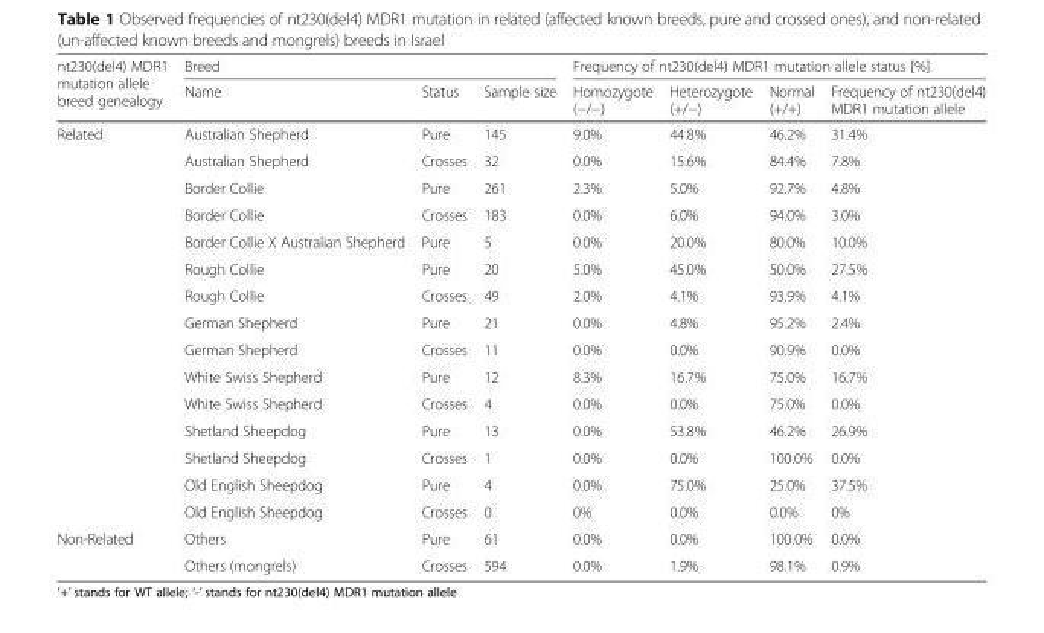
<table><thead><tr><td rowspan="2">nt230(del4) MDR1 mutation allele breed genealogy</td><td colspan="3">Breed</td><td colspan="4">Frequency of nt230(del4) MDR1 mutation allele status [%]</td></tr><tr><td>Name</td><td>Status</td><td>Sample size</td><td>Homozygote (−/−)</td><td>Heterozygote (+/−)</td><td>Normal (+/+)</td><td>Frequency of nt230(del4) MDR1 mutation allele</td></tr></thead><tbody><tr><td rowspan="15">Related</td><td>Australian Shepherd</td><td>Pure</td><td>145</td><td>9.0%</td><td>44.8%</td><td>46.2%</td><td>31.4%</td></tr><tr><td>Australian Shepherd</td><td>Crosses</td><td>32</td><td>0.0%</td><td>15.6%</td><td>84.4%</td><td>7.8%</td></tr><tr><td>Border Collie</td><td>Pure</td><td>261</td><td>2.3%</td><td>5.0%</td><td>92.7%</td><td>4.8%</td></tr><tr><td>Border Collie</td><td>Crosses</td><td>183</td><td>0.0%</td><td>6.0%</td><td>94.0%</td><td>3.0%</td></tr><tr><td>Border Collie X Australian Shepherd</td><td>Pure</td><td>5</td><td>0.0%</td><td>20.0%</td><td>80.0%</td><td>10.0%</td></tr><tr><td>Rough Collie</td><td>Pure</td><td>20</td><td>5.0%</td><td>45.0%</td><td>50.0%</td><td>27.5%</td></tr><tr><td>Rough Collie</td><td>Crosses</td><td>49</td><td>2.0%</td><td>4.1%</td><td>93.9%</td><td>4.1%</td></tr><tr><td>German Shepherd</td><td>Pure</td><td>21</td><td>0.0%</td><td>4.8%</td><td>95.2%</td><td>2.4%</td></tr><tr><td>German Shepherd</td><td>Crosses</td><td>11</td><td>0.0%</td><td>0.0%</td><td>90.9%</td><td>0.0%</td></tr><tr><td>White Swiss Shepherd</td><td>Pure</td><td>12</td><td>8.3%</td><td>16.7%</td><td>75.0%</td><td>16.7%</td></tr><tr><td>White Swiss Shepherd</td><td>Crosses</td><td>4</td><td>0.0%</td><td>0.0%</td><td>75.0%</td><td>0.0%</td></tr><tr><td>Shetland Sheepdog</td><td>Pure</td><td>13</td><td>0.0%</td><td>53.8%</td><td>46.2%</td><td>26.9%</td></tr><tr><td>Shetland Sheepdog</td><td>Crosses</td><td>1</td><td>0.0%</td><td>0.0%</td><td>100.0%</td><td>0.0%</td></tr><tr><td>Old English Sheepdog</td><td>Pure</td><td>4</td><td>0.0%</td><td>75.0%</td><td>25.0%</td><td>37.5%</td></tr><tr><td>Old English Sheepdog</td><td>Crosses</td><td>0</td><td>0%</td><td>0.0%</td><td>0.0%</td><td>0%</td></tr><tr><td rowspan="2">Non-Related</td><td>Others</td><td>Pure</td><td>61</td><td>0.0%</td><td>0.0%</td><td>100.0%</td><td>0.0%</td></tr><tr><td>Others (mongrels)</td><td>Crosses</td><td>594</td><td>0.0%</td><td>1.9%</td><td>98.1%</td><td>0.9%</td></tr></tbody></table>